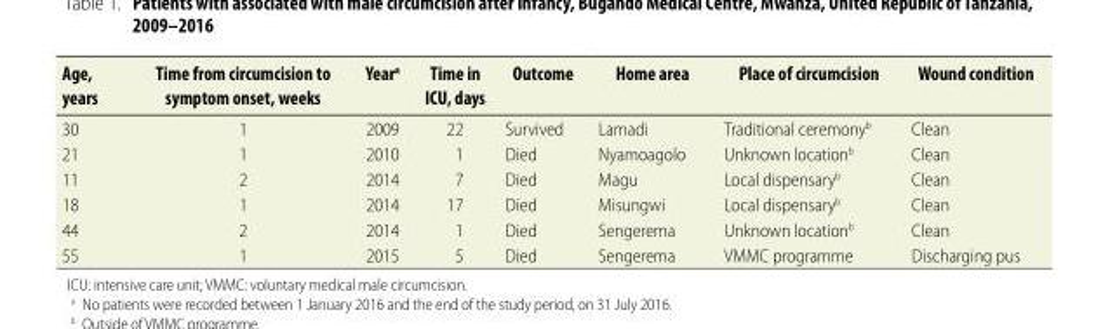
<table><thead><tr><td>Age, years</td><td>Time from circumcision to symptom onset, weeks</td><td>Year<sup>a</sup></td><td>Time in ICU, days</td><td>Outcome</td><td>Home area</td><td>Place of circumcision</td><td>Wound condition</td></tr></thead><tbody><tr><td>30</td><td>1</td><td>2009</td><td>22</td><td>Survived</td><td>Lamadi</td><td>Traditional ceremony<sup>b</sup></td><td>Clean</td></tr><tr><td>21</td><td>1</td><td>2010</td><td>1</td><td>Died</td><td>Nyamoagolo</td><td>Unknown location<sup>b</sup></td><td>Clean</td></tr><tr><td>11</td><td>2</td><td>2014</td><td>7</td><td>Died</td><td>Magu</td><td>Local dispensary<sup>b</sup></td><td>Clean</td></tr><tr><td>18</td><td>1</td><td>2014</td><td>17</td><td>Died</td><td>Misungwi</td><td>Local dispensary<sup>b</sup></td><td>Clean</td></tr><tr><td>44</td><td>2</td><td>2014</td><td>1</td><td>Died</td><td>Sengerema</td><td>Unknown location<sup>b</sup></td><td>Clean</td></tr><tr><td>55</td><td>1</td><td>2015</td><td>5</td><td>Died</td><td>Sengerema</td><td>VMMC programme</td><td>Discharging pus</td></tr></tbody></table>